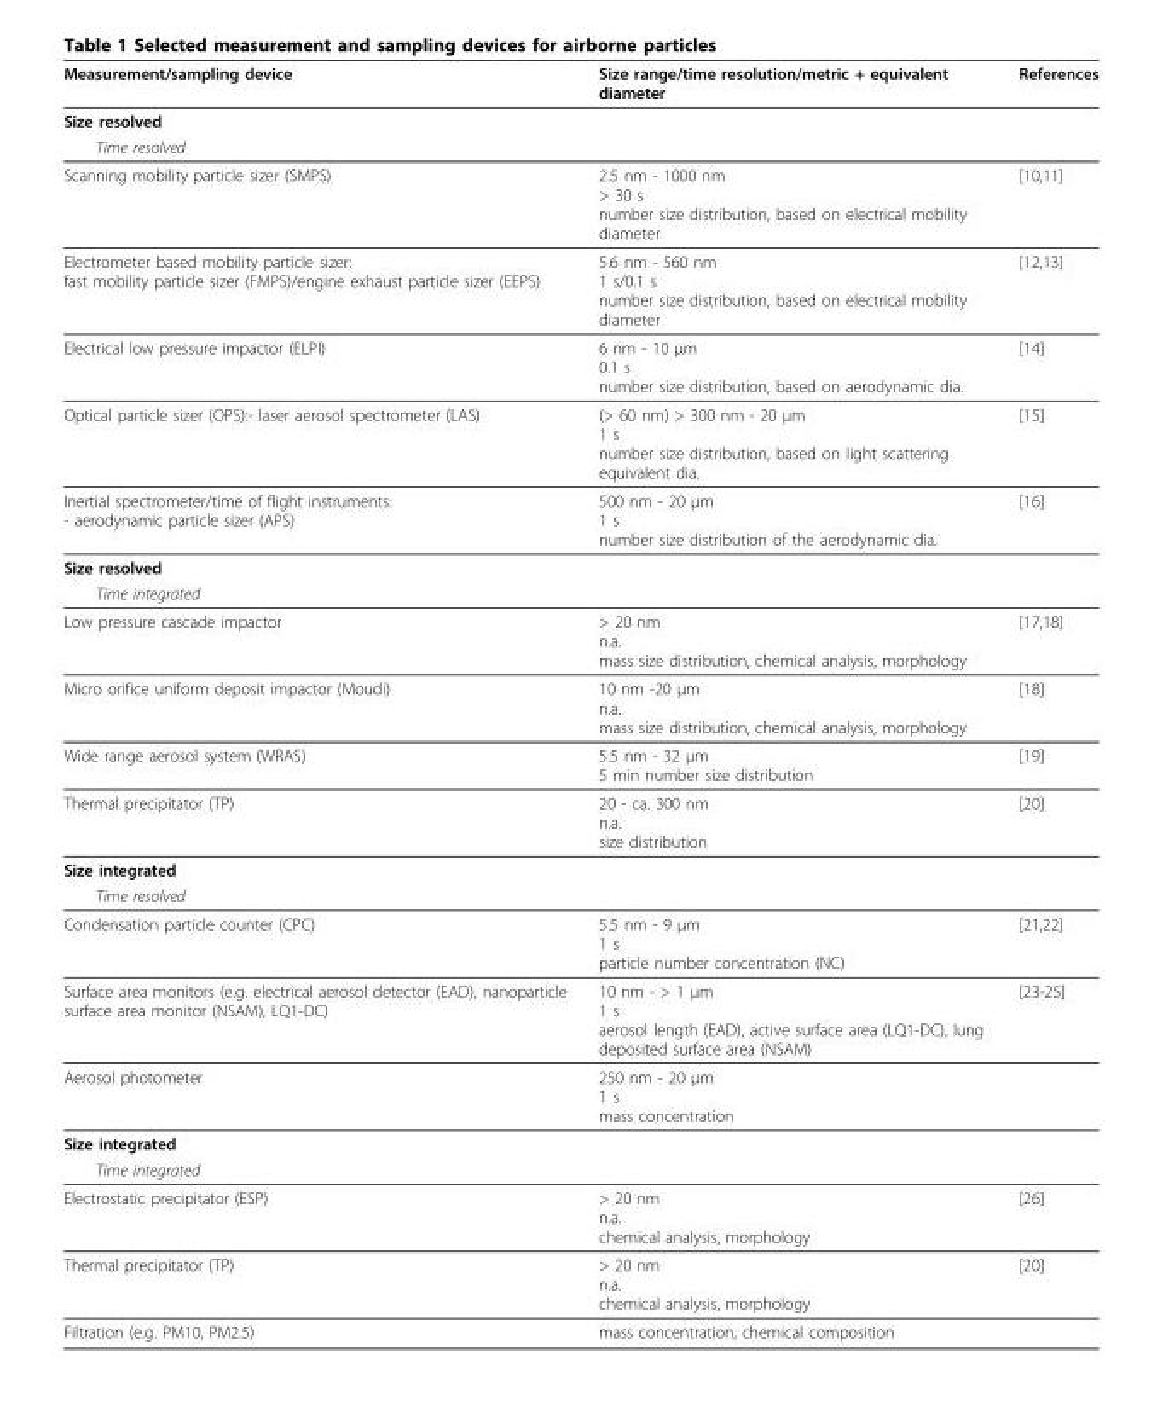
<table><thead><tr><td>Measurement/sampling device</td><td>Size range/time resolution/metric + equivalent diameter</td><td>References</td></tr></thead><tbody><tr><td colspan="3">Size resolved</td></tr><tr><td colspan="3">Time resolved</td></tr><tr><td>Scanning mobility particle sizer (SMPS)</td><td>2.5 nm - 1000 nm &gt; 30 s number size distribution, based on electrical mobility diameter</td><td>[10,11]</td></tr><tr><td>Electrometer based mobility particle sizer: fast mobility particle sizer (FMPS)/engine exhaust particle sizer (EEPS)</td><td>5.6 nm - 560 nm 1 s/0.1 s number size distribution, based on electrical mobility diameter</td><td>[12,13]</td></tr><tr><td>Electrical low pressure impactor (ELPI)</td><td>6 nm - 10 μm 0.1 s number size distribution, based on aerodynamic dia.</td><td>[14]</td></tr><tr><td>Optical particle sizer (OPS):- laser aerosol spectrometer (LAS)</td><td>(&gt; 60 nm) &gt; 300 nm - 20 μm 1 s number size distribution, based on light scattering equivalent dia.</td><td>[15]</td></tr><tr><td>Inertial spectrometer/time of flight instruments: - aerodynamic particle sizer (APS)</td><td>500 nm - 20 μm 1 s number size distribution of the aerodynamic dia.</td><td>[16]</td></tr><tr><td colspan="3">Size resolved</td></tr><tr><td colspan="3">Time integrated</td></tr><tr><td>Low pressure cascade impactor</td><td>&gt; 20 nm n.a. mass size distribution, chemical analysis, morphology</td><td>[17,18]</td></tr><tr><td>Micro orifice uniform deposit impactor (Moudi)</td><td>10 nm -20 μm n.a. mass size distribution, chemical analysis, morphology</td><td>[18]</td></tr><tr><td>Wide range aerosol system (WRAS)</td><td>5.5 nm - 32 μm 5 min number size distribution</td><td>[19]</td></tr><tr><td>Thermal precipitator (TP)</td><td>20 - ca. 300 nm n.a. size distribution</td><td>[20]</td></tr><tr><td colspan="3">Size integrated</td></tr><tr><td colspan="3">Time resolved</td></tr><tr><td>Condensation particle counter (CPC)</td><td>5.5 nm - 9 μm 1 s particle number concentration (NC)</td><td>[21,22]</td></tr><tr><td>Surface area monitors (e.g. electrical aerosol detector (EAD), nanoparticle surface area monitor (NSAM), LQ1-DC)</td><td>10 nm - &gt; 1 μm 1 s aerosol length (EAD), active surface area (LQ1-DC), lung deposited surface area (NSAM)</td><td>[23-25]</td></tr><tr><td>Aerosol photometer</td><td>250 nm - 20 μm 1 s mass concentration</td><td></td></tr><tr><td colspan="3">Size integrated</td></tr><tr><td colspan="3">Time integrated</td></tr><tr><td>Electrostatic precipitator (ESP)</td><td>&gt; 20 nm n.a. chemical analysis, morphology</td><td>[26]</td></tr><tr><td>Thermal precipitator (TP)</td><td>&gt; 20 nm n.a. chemical analysis, morphology</td><td>[20]</td></tr><tr><td>Filtration (e.g. PM10, PM2.5)</td><td>mass concentration, chemical composition</td><td></td></tr></tbody></table>